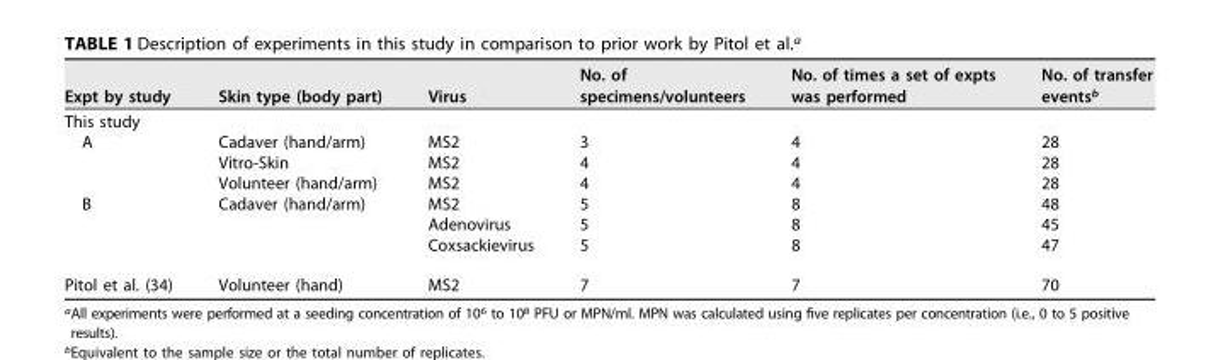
<table><thead><tr><td>Expt by study</td><td>Skin type (body part)</td><td>Virus</td><td>No. of specimens/volunteers</td><td>No. of times a set of expts was performed</td><td>No. of transfer events<sup>b</sup></td></tr></thead><tbody><tr><td colspan="6">This study</td></tr><tr><td rowspan="3">A</td><td>Cadaver (hand/arm)</td><td>MS2</td><td>3</td><td>4</td><td>28</td></tr><tr><td>Vitro-Skin</td><td>MS2</td><td>4</td><td>4</td><td>28</td></tr><tr><td>Volunteer (hand/arm)</td><td>MS2</td><td>4</td><td>4</td><td>28</td></tr><tr><td rowspan="3">B</td><td>Cadaver (hand/arm)</td><td>MS2</td><td>5</td><td>8</td><td>48</td></tr><tr><td></td><td>Adenovirus</td><td>5</td><td>8</td><td>45</td></tr><tr><td></td><td>Coxsackievirus</td><td>5</td><td>8</td><td>47</td></tr><tr><td>Pitol et al. (34)</td><td>Volunteer (hand)</td><td>MS2</td><td>7</td><td>7</td><td>70</td></tr></tbody></table>